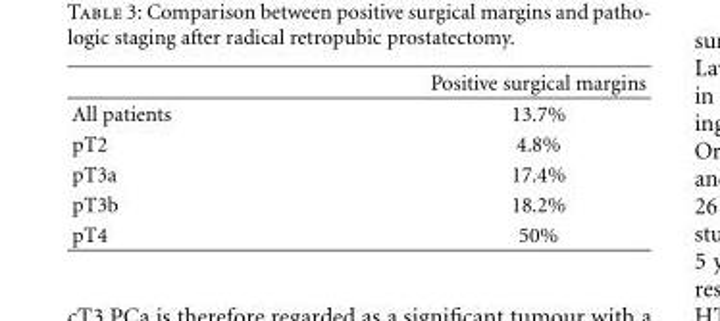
<table><thead><tr><td></td><td>Positive surgical margins</td></tr></thead><tbody><tr><td>All patients</td><td>13.7%</td></tr><tr><td>pT2</td><td>4.8%</td></tr><tr><td>pT3a</td><td>17.4%</td></tr><tr><td>pT3b</td><td>18.2%</td></tr><tr><td>pT4</td><td>50%</td></tr></tbody></table>